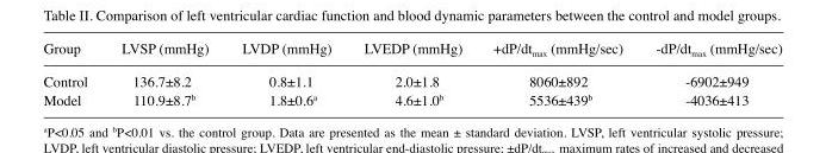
<table><thead><tr><td>Group</td><td>LVSP (mmHg)</td><td>LVDP (mmHg)</td><td>LVEDP (mmHg)</td><td>+dP/dt<sub>max</sub> (mmHg/sec)</td><td>-dP/dt<sub>max</sub> (mmHg/sec)</td></tr></thead><tbody><tr><td>Control</td><td>136.7±8.2</td><td>0.8±1.1</td><td>2.0±1.8</td><td>8060±892</td><td>-6902±949</td></tr><tr><td>Model</td><td>110.9±8.7<sup>b</sup></td><td>1.8±0.6<sup>a</sup></td><td>4.6±1.0<sup>b</sup></td><td>5536±439<sup>b</sup></td><td>-4036±413</td></tr></tbody></table>